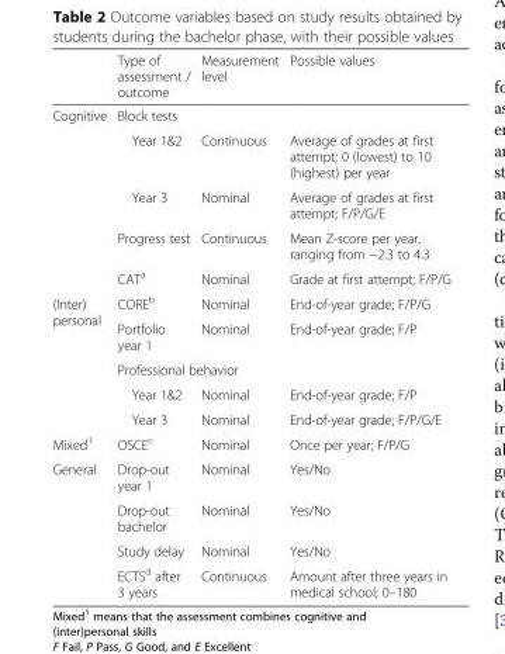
<table><thead><tr><td></td><td>Type of assessment / outcome</td><td>Measurement level</td><td>Possible values</td></tr></thead><tbody><tr><td rowspan="5">Cognitive</td><td colspan="3">Block tests</td></tr><tr><td>Year 1&amp;2</td><td>Continuous</td><td>Average of grades at first attempt; 0 (lowest) to 10 (highest) per year</td></tr><tr><td>Year 3</td><td>Nominal</td><td>Average of grades at first attempt; F/P/G/E</td></tr><tr><td>Progress test</td><td>Continuous</td><td>Mean Z-score per year, ranging from −2.3 to 4.3</td></tr><tr><td>CAT<sup>a</sup></td><td>Nominal</td><td>Grade at first attempt; F/P/G</td></tr><tr><td rowspan="5">(Inter) personal</td><td>CORE<sup>b</sup></td><td>Nominal</td><td>End-of-year grade; F/P/G</td></tr><tr><td>Portfolio year 1</td><td>Nominal</td><td>End-of-year grade; F/P</td></tr><tr><td colspan="3">Professional behavior</td></tr><tr><td>Year 1&amp;2</td><td>Nominal</td><td>End-of-year grade; F/P</td></tr><tr><td>Year 3</td><td>Nominal</td><td>End-of-year grade; F/P/G/E</td></tr><tr><td>Mixed<sup>1</sup></td><td>OSCE<sup>c</sup></td><td>Nominal</td><td>Once per year; F/P/G</td></tr><tr><td rowspan="4">General</td><td>Drop-out year 1</td><td>Nominal</td><td>Yes/No</td></tr><tr><td>Drop-out bachelor</td><td>Nominal</td><td>Yes/No</td></tr><tr><td>Study delay</td><td>Nominal</td><td>Yes/No</td></tr><tr><td>ECTS<sup>d</sup> after 3 years</td><td>Continuous</td><td>Amount after three years in medical school; 0–180</td></tr></tbody></table>